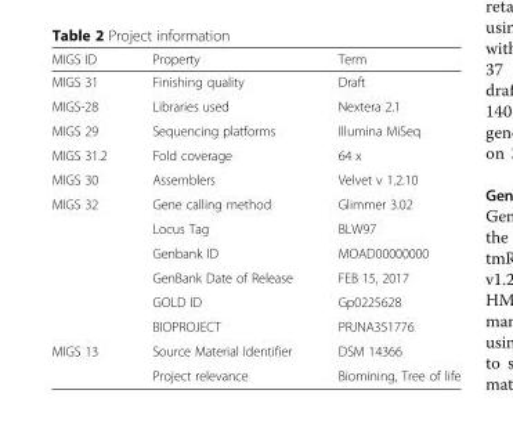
<table><thead><tr><td>MIGS ID</td><td>Property</td><td>Term</td></tr></thead><tbody><tr><td>MIGS 31</td><td>Finishing quality</td><td>Draft</td></tr><tr><td>MIGS-28</td><td>Libraries used</td><td>Nextera 2.1</td></tr><tr><td>MIGS 29</td><td>Sequencing platforms</td><td>Illumina MiSeq</td></tr><tr><td>MIGS 31.2</td><td>Fold coverage</td><td>64 x</td></tr><tr><td>MIGS 30</td><td>Assemblers</td><td>Velvet v 1.2.10</td></tr><tr><td rowspan="6">MIGS 32</td><td>Gene calling method</td><td>Glimmer 3.02</td></tr><tr><td>Locus Tag</td><td>BLW97</td></tr><tr><td>Genbank ID</td><td>MOAD00000000</td></tr><tr><td>GenBank Date of Release</td><td>FEB 15, 2017</td></tr><tr><td>GOLD ID</td><td>Gp0225628</td></tr><tr><td>BIOPROJECT</td><td>PRJNA351776</td></tr><tr><td rowspan="2">MIGS 13</td><td>Source Material Identifier</td><td>DSM 14366</td></tr><tr><td>Project relevance</td><td>Biomining, Tree of life</td></tr></tbody></table>